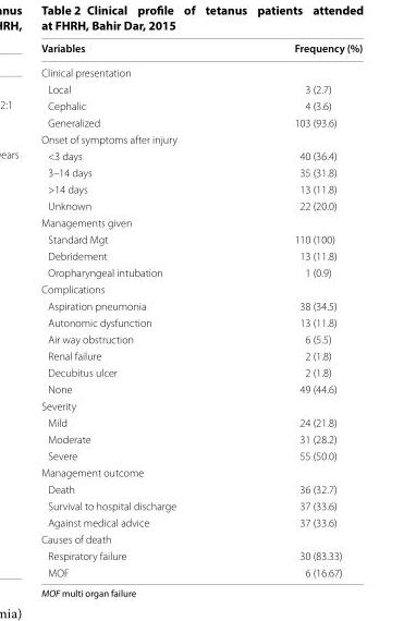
<table><thead><tr><td>Variables</td><td>Frequency (%)</td></tr></thead><tbody><tr><td colspan="2">Clinical presentation</td></tr><tr><td>Local</td><td>3 (2.7)</td></tr><tr><td>Cephalic</td><td>4 (3.6)</td></tr><tr><td>Generalized</td><td>103 (93.6)</td></tr><tr><td colspan="2">Onset of symptoms after injury</td></tr><tr><td>&lt;3 days</td><td>40 (36.4)</td></tr><tr><td>3–14 days</td><td>35 (31.8)</td></tr><tr><td>&gt;14 days</td><td>13 (11.8)</td></tr><tr><td>Unknown</td><td>22 (20.0)</td></tr><tr><td colspan="2">Managements given</td></tr><tr><td>Standard Mgt</td><td>110 (100)</td></tr><tr><td>Debridement</td><td>13 (11.8)</td></tr><tr><td>Oropharyngeal intubation</td><td>1 (0.9)</td></tr><tr><td colspan="2">Complications</td></tr><tr><td>Aspiration pneumonia</td><td>38 (34.5)</td></tr><tr><td>Autonomic dysfunction</td><td>13 (11.8)</td></tr><tr><td>Air way obstruction</td><td>6 (5.5)</td></tr><tr><td>Renal failure</td><td>2 (1.8)</td></tr><tr><td>Decubitus ulcer</td><td>2 (1.8)</td></tr><tr><td>None</td><td>49 (44.6)</td></tr><tr><td colspan="2">Severity</td></tr><tr><td>Mild</td><td>24 (21.8)</td></tr><tr><td>Moderate</td><td>31 (28.2)</td></tr><tr><td>Severe</td><td>55 (50.0)</td></tr><tr><td colspan="2">Management outcome</td></tr><tr><td>Death</td><td>36 (32.7)</td></tr><tr><td>Survival to hospital discharge</td><td>37 (33.6)</td></tr><tr><td>Against medical advice</td><td>37 (33.6)</td></tr><tr><td colspan="2">Causes of death</td></tr><tr><td>Respiratory failure</td><td>30 (83.33)</td></tr><tr><td>MOF</td><td>6 (16.67)</td></tr></tbody></table>